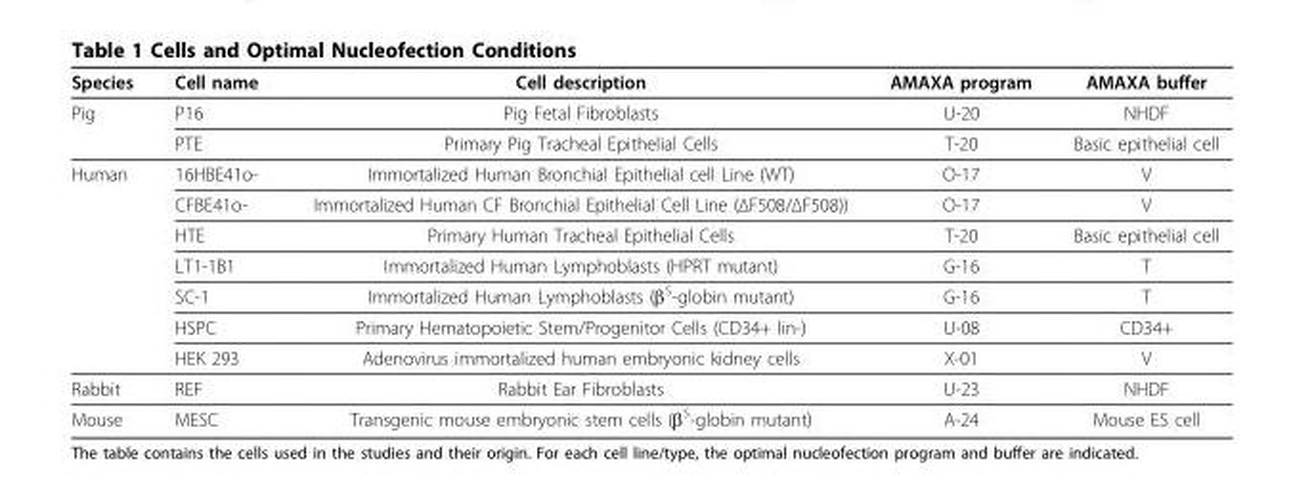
<table><thead><tr><td>Species</td><td>Cell name</td><td>Cell description</td><td>AMAXA program</td><td>AMAXA buffer</td></tr></thead><tbody><tr><td rowspan="2">Pig</td><td>P16</td><td>Pig Fetal Fibroblasts</td><td>U-20</td><td>NHDF</td></tr><tr><td>PTE</td><td>Primary Pig Tracheal Epithelial Cells</td><td>T-20</td><td>Basic epithelial cell</td></tr><tr><td rowspan="7">Human</td><td>16HBE41o-</td><td>Immortalized Human Bronchial Epithelial cell Line (WT)</td><td>O-17</td><td>V</td></tr><tr><td>CFBE41o-</td><td>Immortalized Human CF Bronchial Epithelial Cell Line (ΔF508/ΔF508))</td><td>O-17</td><td>V</td></tr><tr><td>HTE</td><td>Primary Human Tracheal Epithelial Cells</td><td>T-20</td><td>Basic epithelial cell</td></tr><tr><td>LT1-1B1</td><td>Immortalized Human Lymphoblasts (HPRT mutant)</td><td>G-16</td><td>T</td></tr><tr><td>SC-1</td><td>Immortalized Human Lymphoblasts (β<sup>S</sup>-globin mutant)</td><td>G-16</td><td>T</td></tr><tr><td>HSPC</td><td>Primary Hematopoietic Stem/Progenitor Cells (CD34+ lin-)</td><td>U-08</td><td>CD34+</td></tr><tr><td>HEK 293</td><td>Adenovirus immortalized human embryonic kidney cells</td><td>X-01</td><td>V</td></tr><tr><td>Rabbit</td><td>REF</td><td>Rabbit Ear Fibroblasts</td><td>U-23</td><td>NHDF</td></tr><tr><td>Mouse</td><td>MESC</td><td>Transgenic mouse embryonic stem cells (β<sup>S</sup>-globin mutant)</td><td>A-24</td><td>Mouse ES cell</td></tr></tbody></table>